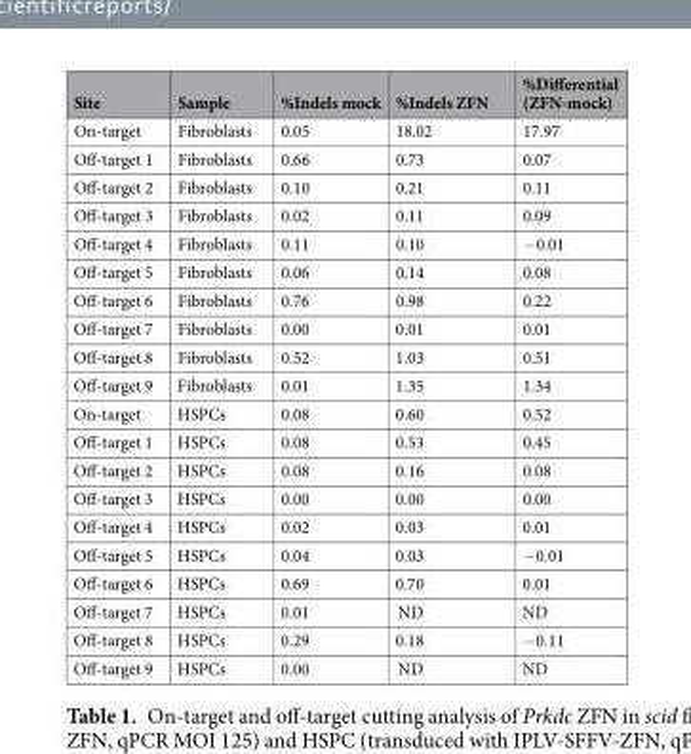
<table><thead><tr><td>Site</td><td>Sample</td><td>%Indels mock</td><td>%Indels ZFN</td><td>%Differential (ZFN-mock)</td></tr></thead><tbody><tr><td>On-target</td><td>Fibroblasts</td><td>0.05</td><td>18.02</td><td>17.97</td></tr><tr><td>Off-target 1</td><td>Fibroblasts</td><td>0.66</td><td>0.73</td><td>0.07</td></tr><tr><td>Off-target 2</td><td>Fibroblasts</td><td>0.10</td><td>0.21</td><td>0.11</td></tr><tr><td>Off-target 3</td><td>Fibroblasts</td><td>0.02</td><td>0.11</td><td>0.09</td></tr><tr><td>Off-target 4</td><td>Fibroblasts</td><td>0.11</td><td>0.10</td><td>−0.01</td></tr><tr><td>Off-target 5</td><td>Fibroblasts</td><td>0.06</td><td>0.14</td><td>0.08</td></tr><tr><td>Off-target 6</td><td>Fibroblasts</td><td>0.76</td><td>0.98</td><td>0.22</td></tr><tr><td>Off-target 7</td><td>Fibroblasts</td><td>0.00</td><td>0.01</td><td>0.01</td></tr><tr><td>Off-target 8</td><td>Fibroblasts</td><td>0.52</td><td>1.03</td><td>0.51</td></tr><tr><td>Off-target 9</td><td>Fibroblasts</td><td>0.01</td><td>1.35</td><td>1.34</td></tr><tr><td>On-target</td><td>HSPCs</td><td>0.08</td><td>0.60</td><td>0.52</td></tr><tr><td>Off-target 1</td><td>HSPCs</td><td>0.08</td><td>0.53</td><td>0.45</td></tr><tr><td>Off-target 2</td><td>HSPCs</td><td>0.08</td><td>0.16</td><td>0.08</td></tr><tr><td>Off-target 3</td><td>HSPCs</td><td>0.00</td><td>0.00</td><td>0.00</td></tr><tr><td>Off-target 4</td><td>HSPCs</td><td>0.02</td><td>0.03</td><td>0.01</td></tr><tr><td>Off-target 5</td><td>HSPCs</td><td>0.04</td><td>0.03</td><td>−0.01</td></tr><tr><td>Off-target 6</td><td>HSPCs</td><td>0.69</td><td>0.70</td><td>0.01</td></tr><tr><td>Off-target 7</td><td>HSPCs</td><td>0.01</td><td>ND</td><td>ND</td></tr><tr><td>Off-target 8</td><td>HSPCs</td><td>0.29</td><td>0.18</td><td>−0.11</td></tr><tr><td>Off-target 9</td><td>HSPCs</td><td>0.00</td><td>ND</td><td>ND</td></tr></tbody></table>